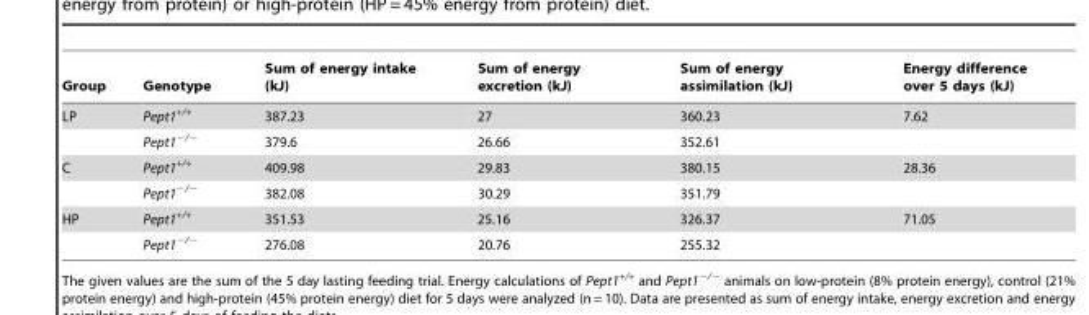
<table><thead><tr><td>Group</td><td>Genotype</td><td>Sum of energy intake (kJ)</td><td>Sum of energy excretion (kJ)</td><td>Sum of energy assimilation (kJ)</td><td>Energy difference over 5 days (kJ)</td></tr></thead><tbody><tr><td rowspan="2">LP</td><td>Pept1<sup>+/+</sup></td><td>387.23</td><td>27</td><td>360.23</td><td>7.62</td></tr><tr><td>Pept1<sup>−/−</sup></td><td>379.6</td><td>26.66</td><td>352.61</td><td></td></tr><tr><td rowspan="2">C</td><td>Pept1<sup>+/+</sup></td><td>409.98</td><td>29.83</td><td>380.15</td><td>28.36</td></tr><tr><td>Pept1<sup>−/−</sup></td><td>382.08</td><td>30.29</td><td>351.79</td><td></td></tr><tr><td rowspan="2">HP</td><td>Pept1<sup>+/+</sup></td><td>351.53</td><td>25.16</td><td>326.37</td><td>71.05</td></tr><tr><td>Pept1<sup>−/−</sup></td><td>276.08</td><td>20.76</td><td>255.32</td><td></td></tr></tbody></table>